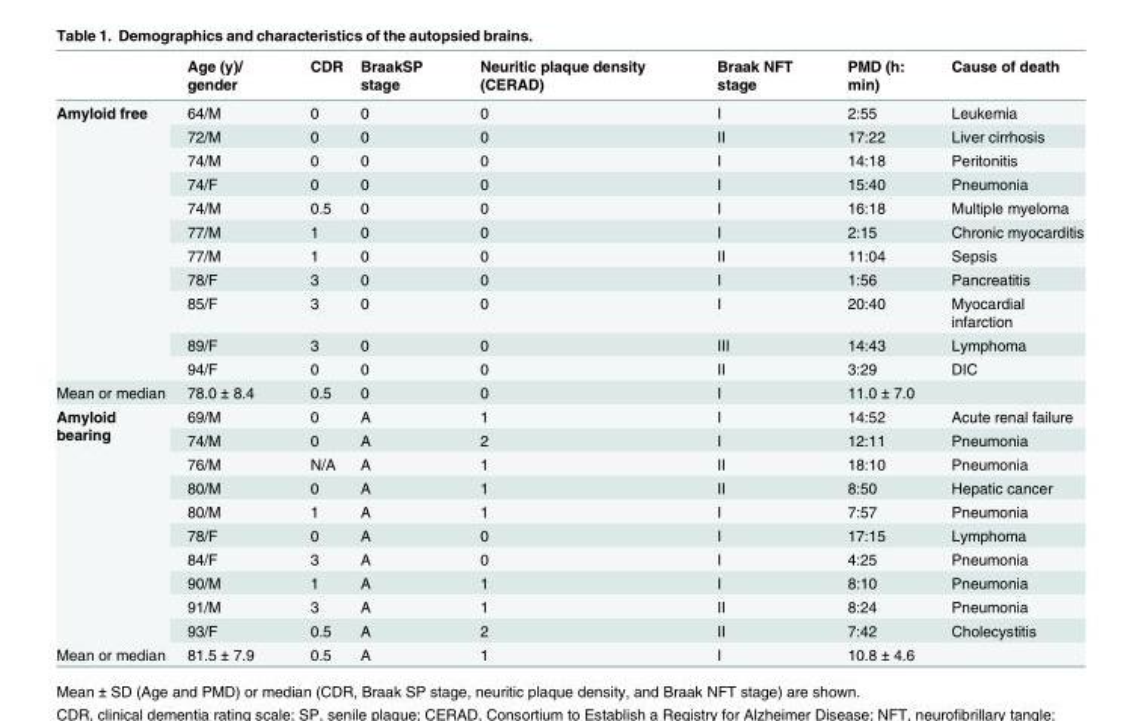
<table><thead><tr><td></td><td>Age (y)/ gender</td><td>CDR</td><td>BraakSP stage</td><td>Neuritic plaque density (CERAD)</td><td>Braak NFT stage</td><td>PMD (h: min)</td><td>Cause of death</td></tr></thead><tbody><tr><td rowspan="11">Amyloid free</td><td>64/M</td><td>0</td><td>0</td><td>0</td><td>I</td><td>2:55</td><td>Leukemia</td></tr><tr><td>72/M</td><td>0</td><td>0</td><td>0</td><td>II</td><td>17:22</td><td>Liver cirrhosis</td></tr><tr><td>74/M</td><td>0</td><td>0</td><td>0</td><td>I</td><td>14:18</td><td>Peritonitis</td></tr><tr><td>74/F</td><td>0</td><td>0</td><td>0</td><td>I</td><td>15:40</td><td>Pneumonia</td></tr><tr><td>74/M</td><td>0.5</td><td>0</td><td>0</td><td>I</td><td>16:18</td><td>Multiple myeloma</td></tr><tr><td>77/M</td><td>1</td><td>0</td><td>0</td><td>I</td><td>2:15</td><td>Chronic myocarditis</td></tr><tr><td>77/M</td><td>1</td><td>0</td><td>0</td><td>II</td><td>11:04</td><td>Sepsis</td></tr><tr><td>78/F</td><td>3</td><td>0</td><td>0</td><td>I</td><td>1:56</td><td>Pancreatitis</td></tr><tr><td>85/F</td><td>3</td><td>0</td><td>0</td><td>I</td><td>20:40</td><td>Myocardial infarction</td></tr><tr><td>89/F</td><td>3</td><td>0</td><td>0</td><td>III</td><td>14:43</td><td>Lymphoma</td></tr><tr><td>94/F</td><td>0</td><td>0</td><td>0</td><td>II</td><td>3:29</td><td>DIC</td></tr><tr><td>Mean or median</td><td>78.0 ± 8.4</td><td>0.5</td><td>0</td><td>0</td><td>I</td><td>11.0 ± 7.0</td><td></td></tr><tr><td rowspan="10">Amyloid bearing</td><td>69/M</td><td>0</td><td>A</td><td>1</td><td>I</td><td>14:52</td><td>Acute renal failure</td></tr><tr><td>74/M</td><td>0</td><td>A</td><td>2</td><td>I</td><td>12:11</td><td>Pneumonia</td></tr><tr><td>76/M</td><td>N/A</td><td>A</td><td>1</td><td>II</td><td>18:10</td><td>Pneumonia</td></tr><tr><td>80/M</td><td>0</td><td>A</td><td>1</td><td>II</td><td>8:50</td><td>Hepatic cancer</td></tr><tr><td>80/M</td><td>1</td><td>A</td><td>1</td><td>I</td><td>7:57</td><td>Pneumonia</td></tr><tr><td>78/F</td><td>0</td><td>A</td><td>0</td><td>I</td><td>17:15</td><td>Lymphoma</td></tr><tr><td>84/F</td><td>3</td><td>A</td><td>0</td><td>I</td><td>4:25</td><td>Pneumonia</td></tr><tr><td>90/M</td><td>1</td><td>A</td><td>1</td><td>I</td><td>8:10</td><td>Pneumonia</td></tr><tr><td>91/M</td><td>3</td><td>A</td><td>1</td><td>II</td><td>8:24</td><td>Pneumonia</td></tr><tr><td>93/F</td><td>0.5</td><td>A</td><td>2</td><td>II</td><td>7:42</td><td>Cholecystitis</td></tr><tr><td>Mean or median</td><td>81.5 ± 7.9</td><td>0.5</td><td>A</td><td>1</td><td>I</td><td>10.8 ± 4.6</td><td></td></tr></tbody></table>